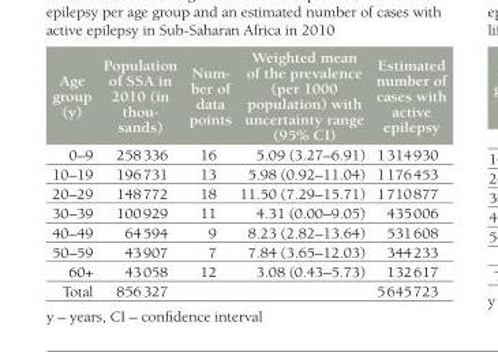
<table><thead><tr><td>Age group (y)</td><td>Population of SSA in 2010 (in thou- sands)</td><td>Num- ber of data points</td><td>Weighted mean of the prevalence (per 1000 population) with uncertainty range (95% CI)</td><td>Estimated number of cases with active epilepsy</td></tr></thead><tbody><tr><td>0–9</td><td>258 336</td><td>16</td><td>5.09 (3.27–6.91)</td><td>1 314 930</td></tr><tr><td>10–19</td><td>196 731</td><td>13</td><td>5.98 (0.92–11.04)</td><td>1 176 453</td></tr><tr><td>20–29</td><td>148 772</td><td>18</td><td>11.50 (7.29–15.71)</td><td>1 710 877</td></tr><tr><td>30–39</td><td>100 929</td><td>11</td><td>4.31 (0.00–9.05)</td><td>435 006</td></tr><tr><td>40–49</td><td>64 594</td><td>9</td><td>8.23 (2.82–13.64)</td><td>531 608</td></tr><tr><td>50–59</td><td>43 907</td><td>7</td><td>7.84 (3.65–12.03)</td><td>344 233</td></tr><tr><td>60+</td><td>43 058</td><td>12</td><td>3.08 (0.43–5.73)</td><td>132 617</td></tr><tr><td>Total</td><td>856 327</td><td></td><td></td><td>5 645 723</td></tr></tbody></table>